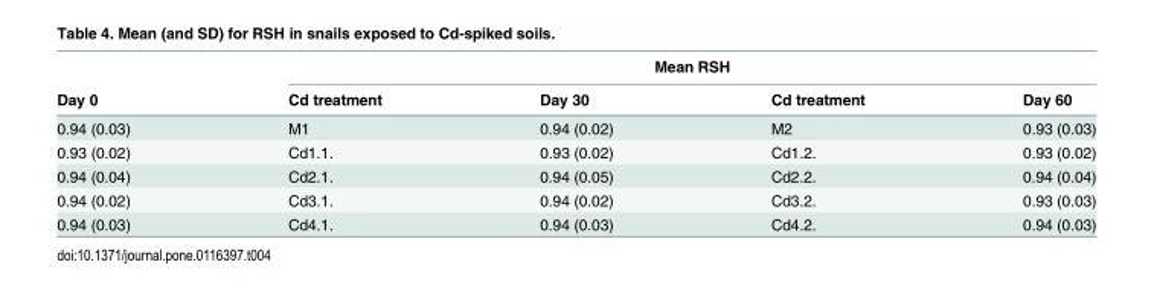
<table><thead><tr><td rowspan="2">Day 0</td><td colspan="4">Mean RSH</td></tr><tr><td>Cd treatment</td><td>Day 30</td><td>Cd treatment</td><td>Day 60</td></tr></thead><tbody><tr><td>0.94 (0.03)</td><td>M1</td><td>0.94 (0.02)</td><td>M2</td><td>0.93 (0.03)</td></tr><tr><td>0.93 (0.02)</td><td>Cd1.1.</td><td>0.93 (0.02)</td><td>Cd1.2.</td><td>0.93 (0.02)</td></tr><tr><td>0.94 (0.04)</td><td>Cd2.1.</td><td>0.94 (0.05)</td><td>Cd2.2.</td><td>0.94 (0.04)</td></tr><tr><td>0.94 (0.02)</td><td>Cd3.1.</td><td>0.94 (0.02)</td><td>Cd3.2.</td><td>0.93 (0.03)</td></tr><tr><td>0.94 (0.03)</td><td>Cd4.1.</td><td>0.94 (0.03)</td><td>Cd4.2.</td><td>0.94 (0.03)</td></tr></tbody></table>